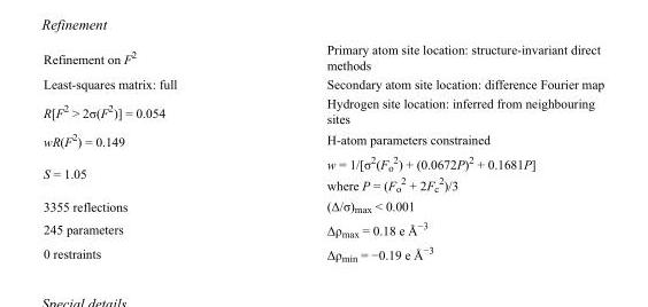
<table><tbody><tr><td>Refinement on F<sup>2</sup></td><td>Primary atom site location: structure-invariant direct methods</td></tr><tr><td>Least-squares matrix: full</td><td>Secondary atom site location: difference Fourier map</td></tr><tr><td>R[F<sup>2</sup> &gt; 2σ(F<sup>2</sup>)] = 0.054</td><td>Hydrogen site location: inferred from neighbouring sites</td></tr><tr><td>wR(F<sup>2</sup>) = 0.149</td><td>H-atom parameters constrained</td></tr><tr><td>S = 1.05</td><td>w = 1/[σ<sup>2</sup>(F<sub>o</sub> <sup>2</sup>) + (0.0672P)<sup>2</sup> + 0.1681P] where P = (F<sub>o</sub> <sup>2</sup> + 2F<sub>c</sub> <sup>2</sup>)/3</td></tr><tr><td>3355 reflections</td><td>(Δ/σ)<sub>max</sub> &lt; 0.001</td></tr><tr><td>245 parameters</td><td>Δρ<sub>max</sub> = 0.18 e Å<sup>−3</sup></td></tr><tr><td>0 restraints</td><td>Δρ<sub>min</sub> = −0.19 e Å<sup>−3</sup></td></tr></tbody></table>